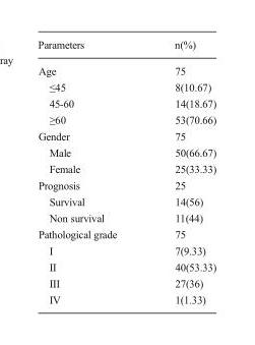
<table><thead><tr><td>Parameters</td><td>n(%)</td></tr></thead><tbody><tr><td>Age</td><td>75</td></tr><tr><td>≤45</td><td>8(10.67)</td></tr><tr><td>45-60</td><td>14(18.67)</td></tr><tr><td>≥60</td><td>53(70.66)</td></tr><tr><td>Gender</td><td>75</td></tr><tr><td>Male</td><td>50(66.67)</td></tr><tr><td>Female</td><td>25(33.33)</td></tr><tr><td>Prognosis</td><td>25</td></tr><tr><td>Survival</td><td>14(56)</td></tr><tr><td>Non survival</td><td>11(44)</td></tr><tr><td>Pathological grade</td><td>75</td></tr><tr><td>I</td><td>7(9.33)</td></tr><tr><td>II</td><td>40(53.33)</td></tr><tr><td>III</td><td>27(36)</td></tr><tr><td>IV</td><td>1(1.33)</td></tr></tbody></table>